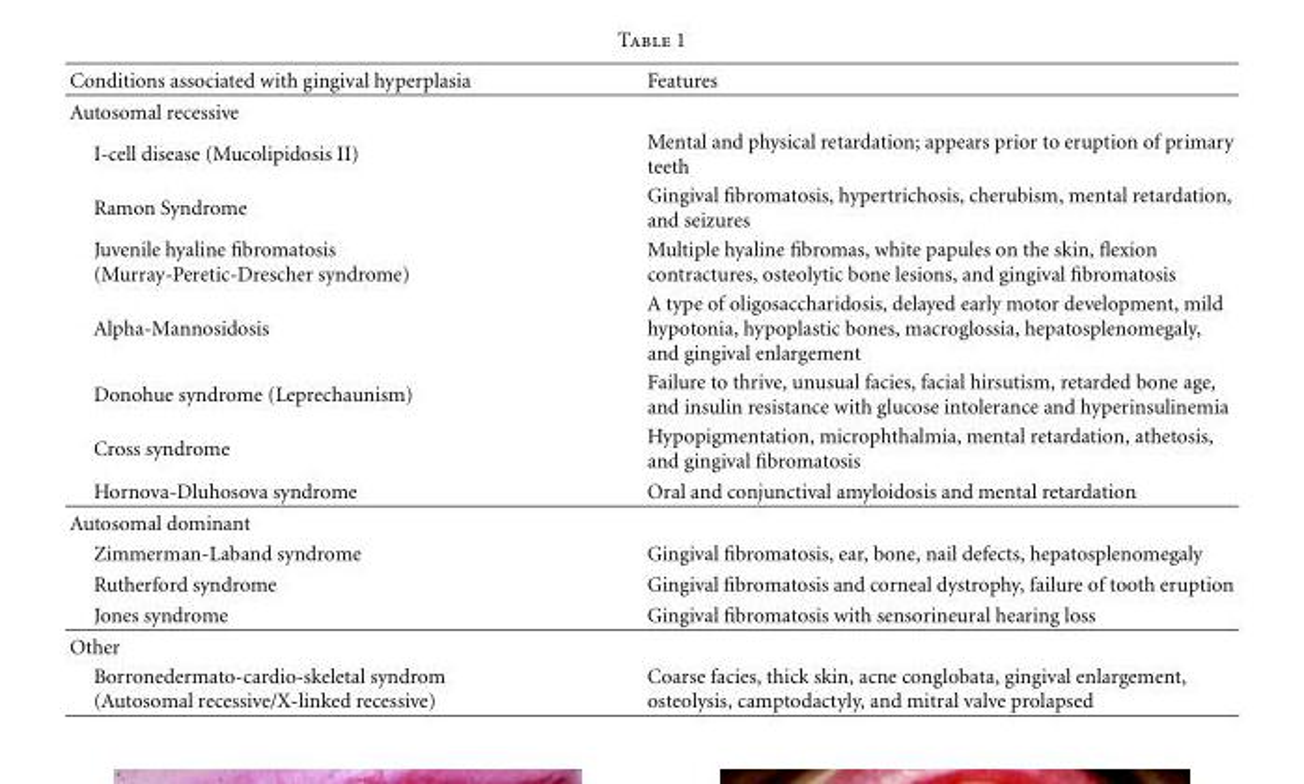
<table><thead><tr><td>Conditions associated with gingival hyperplasia</td><td>Features</td></tr></thead><tbody><tr><td colspan="2">Autosomal recessive</td></tr><tr><td>I-cell disease (Mucolipidosis II)</td><td>Mental and physical retardation; appears prior to eruption of primary teeth</td></tr><tr><td>Ramon Syndrome</td><td>Gingival fibromatosis, hypertrichosis, cherubism, mental retardation, and seizures</td></tr><tr><td>Juvenile hyaline fibromatosis (Murray-Peretic-Drescher syndrome)</td><td>Multiple hyaline fibromas, white papules on the skin, flexion contractures, osteolytic bone lesions, and gingival fibromatosis</td></tr><tr><td>Alpha-Mannosidosis</td><td>A type of oligosaccharidosis, delayed early motor development, mild hypotonia, hypoplastic bones, macroglossia, hepatosplenomegaly, and gingival enlargement</td></tr><tr><td>Donohue syndrome (Leprechaunism)</td><td>Failure to thrive, unusual facies, facial hirsutism, retarded bone age, and insulin resistance with glucose intolerance and hyperinsulinemia</td></tr><tr><td>Cross syndrome</td><td>Hypopigmentation, microphthalmia, mental retardation, athetosis, and gingival fibromatosis</td></tr><tr><td>Hornova-Dluhosova syndrome</td><td>Oral and conjunctival amyloidosis and mental retardation</td></tr><tr><td colspan="2">Autosomal dominant</td></tr><tr><td>Zimmerman-Laband syndrome</td><td>Gingival fibromatosis, ear, bone, nail defects, hepatosplenomegaly</td></tr><tr><td>Rutherford syndrome</td><td>Gingival fibromatosis and corneal dystrophy, failure of tooth eruption</td></tr><tr><td>Jones syndrome</td><td>Gingival fibromatosis with sensorineural hearing loss</td></tr><tr><td colspan="2">Other</td></tr><tr><td>Borronedermato-cardio-skeletal syndrom (Autosomal recessive/X-linked recessive)</td><td>Coarse facies, thick skin, acne conglobata, gingival enlargement, osteolysis, camptodactyly, and mitral valve prolapsed</td></tr></tbody></table>